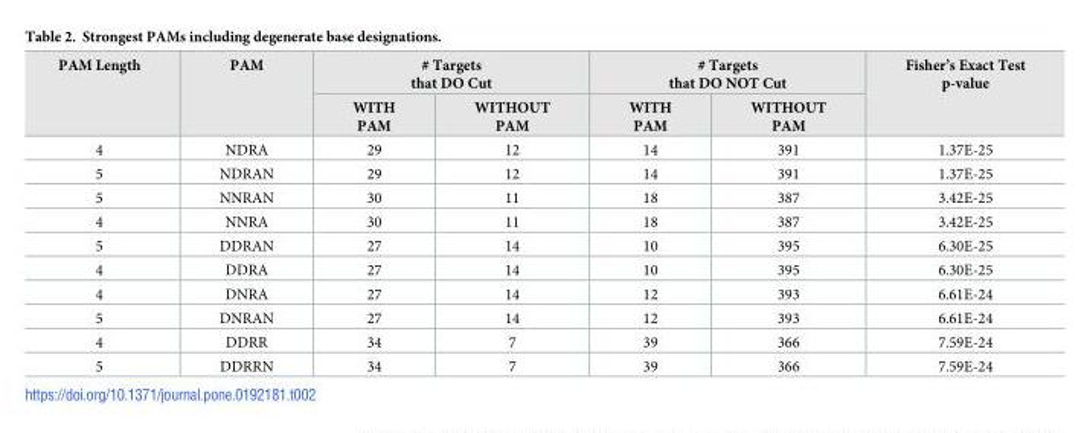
<table><thead><tr><td rowspan="2">PAM Length</td><td rowspan="2">PAM</td><td colspan="2"># Targets that DO Cut</td><td colspan="2"># Targets that DO NOT Cut</td><td rowspan="2">Fisher’s Exact Test p-value</td></tr><tr><td>WITH PAM</td><td>WITHOUT PAM</td><td>WITH PAM</td><td>WITHOUT PAM</td></tr></thead><tbody><tr><td>4</td><td>NDRA</td><td>29</td><td>12</td><td>14</td><td>391</td><td>1.37E-25</td></tr><tr><td>5</td><td>NDRAN</td><td>29</td><td>12</td><td>14</td><td>391</td><td>1.37E-25</td></tr><tr><td>5</td><td>NNRAN</td><td>30</td><td>11</td><td>18</td><td>387</td><td>3.42E-25</td></tr><tr><td>4</td><td>NNRA</td><td>30</td><td>11</td><td>18</td><td>387</td><td>3.42E-25</td></tr><tr><td>5</td><td>DDRAN</td><td>27</td><td>14</td><td>10</td><td>395</td><td>6.30E-25</td></tr><tr><td>4</td><td>DDRA</td><td>27</td><td>14</td><td>10</td><td>395</td><td>6.30E-25</td></tr><tr><td>4</td><td>DNRA</td><td>27</td><td>14</td><td>12</td><td>393</td><td>6.61E-24</td></tr><tr><td>5</td><td>DNRAN</td><td>27</td><td>14</td><td>12</td><td>393</td><td>6.61E-24</td></tr><tr><td>4</td><td>DDRR</td><td>34</td><td>7</td><td>39</td><td>366</td><td>7.59E-24</td></tr><tr><td>5</td><td>DDRRN</td><td>34</td><td>7</td><td>39</td><td>366</td><td>7.59E-24</td></tr></tbody></table>